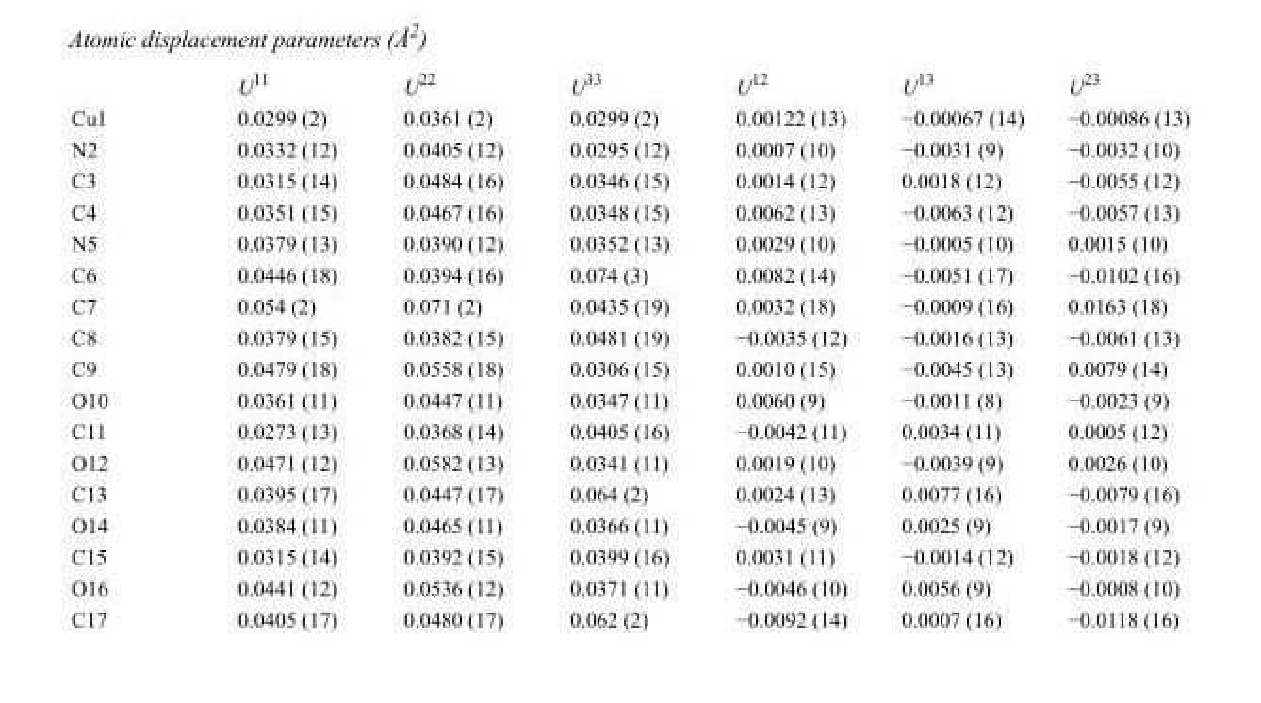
<table><thead><tr><td></td><td>U<sup>11</sup></td><td>U<sup>22</sup></td><td>U<sup>33</sup></td><td>U<sup>12</sup></td><td>U<sup>13</sup></td><td>U<sup>23</sup></td></tr></thead><tbody><tr><td>Cu1</td><td>0.0299 (2)</td><td>0.0361 (2)</td><td>0.0299 (2)</td><td>0.00122 (13)</td><td>−0.00067 (14)</td><td>−0.00086 (13)</td></tr><tr><td>N2</td><td>0.0332 (12)</td><td>0.0405 (12)</td><td>0.0295 (12)</td><td>0.0007 (10)</td><td>−0.0031 (9)</td><td>−0.0032 (10)</td></tr><tr><td>C3</td><td>0.0315 (14)</td><td>0.0484 (16)</td><td>0.0346 (15)</td><td>0.0014 (12)</td><td>0.0018 (12)</td><td>−0.0055 (12)</td></tr><tr><td>C4</td><td>0.0351 (15)</td><td>0.0467 (16)</td><td>0.0348 (15)</td><td>0.0062 (13)</td><td>−0.0063 (12)</td><td>−0.0057 (13)</td></tr><tr><td>N5</td><td>0.0379 (13)</td><td>0.0390 (12)</td><td>0.0352 (13)</td><td>0.0029 (10)</td><td>−0.0005 (10)</td><td>0.0015 (10)</td></tr><tr><td>C6</td><td>0.0446 (18)</td><td>0.0394 (16)</td><td>0.074 (3)</td><td>0.0082 (14)</td><td>−0.0051 (17)</td><td>−0.0102 (16)</td></tr><tr><td>C7</td><td>0.054 (2)</td><td>0.071 (2)</td><td>0.0435 (19)</td><td>0.0032 (18)</td><td>−0.0009 (16)</td><td>0.0163 (18)</td></tr><tr><td>C8</td><td>0.0379 (15)</td><td>0.0382 (15)</td><td>0.0481 (19)</td><td>−0.0035 (12)</td><td>−0.0016 (13)</td><td>−0.0061 (13)</td></tr><tr><td>C9</td><td>0.0479 (18)</td><td>0.0558 (18)</td><td>0.0306 (15)</td><td>0.0010 (15)</td><td>−0.0045 (13)</td><td>0.0079 (14)</td></tr><tr><td>O10</td><td>0.0361 (11)</td><td>0.0447 (11)</td><td>0.0347 (11)</td><td>0.0060 (9)</td><td>−0.0011 (8)</td><td>−0.0023 (9)</td></tr><tr><td>C11</td><td>0.0273 (13)</td><td>0.0368 (14)</td><td>0.0405 (16)</td><td>−0.0042 (11)</td><td>0.0034 (11)</td><td>0.0005 (12)</td></tr><tr><td>O12</td><td>0.0471 (12)</td><td>0.0582 (13)</td><td>0.0341 (11)</td><td>0.0019 (10)</td><td>−0.0039 (9)</td><td>0.0026 (10)</td></tr><tr><td>C13</td><td>0.0395 (17)</td><td>0.0447 (17)</td><td>0.064 (2)</td><td>0.0024 (13)</td><td>0.0077 (16)</td><td>−0.0079 (16)</td></tr><tr><td>O14</td><td>0.0384 (11)</td><td>0.0465 (11)</td><td>0.0366 (11)</td><td>−0.0045 (9)</td><td>0.0025 (9)</td><td>−0.0017 (9)</td></tr><tr><td>C15</td><td>0.0315 (14)</td><td>0.0392 (15)</td><td>0.0399 (16)</td><td>0.0031 (11)</td><td>−0.0014 (12)</td><td>−0.0018 (12)</td></tr><tr><td>O16</td><td>0.0441 (12)</td><td>0.0536 (12)</td><td>0.0371 (11)</td><td>−0.0046 (10)</td><td>0.0056 (9)</td><td>−0.0008 (10)</td></tr><tr><td>C17</td><td>0.0405 (17)</td><td>0.0480 (17)</td><td>0.062 (2)</td><td>−0.0092 (14)</td><td>0.0007 (16)</td><td>−0.0118 (16)</td></tr></tbody></table>